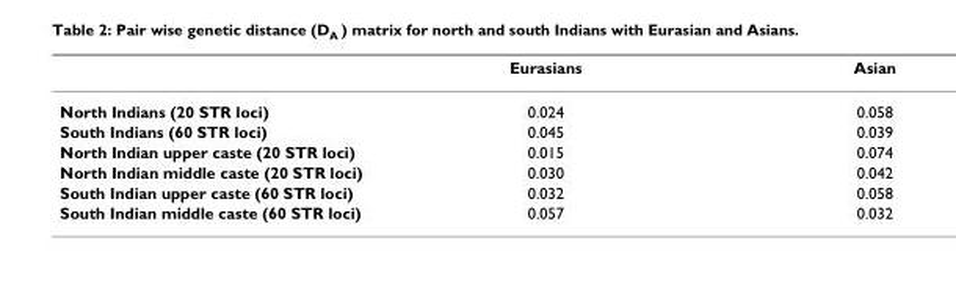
<table><thead><tr><td></td><td>Eurasians</td><td>Asian</td></tr></thead><tbody><tr><td>North Indians (20 STR loci)</td><td>0.024</td><td>0.058</td></tr><tr><td>South Indians (60 STR loci)</td><td>0.045</td><td>0.039</td></tr><tr><td>North Indian upper caste (20 STR loci)</td><td>0.015</td><td>0.074</td></tr><tr><td>North Indian middle caste (20 STR loci)</td><td>0.030</td><td>0.042</td></tr><tr><td>South Indian upper caste (60 STR loci)</td><td>0.032</td><td>0.058</td></tr><tr><td>South Indian middle caste (60 STR loci)</td><td>0.057</td><td>0.032</td></tr></tbody></table>